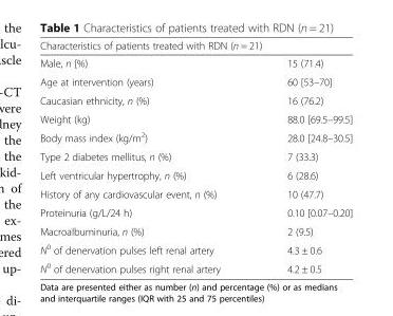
<table><thead><tr><td colspan="2">Characteristics of patients treated with RDN (n = 21)</td></tr><tr><td>Male, n [%)</td><td>15 (71.4)</td></tr></thead><tbody><tr><td>Age at intervention (years)</td><td>60 [53–70]</td></tr><tr><td>Caucasian ethnicity, n (%)</td><td>16 (76.2)</td></tr><tr><td>Weight (kg)</td><td>88.0 [69.5–99.5]</td></tr><tr><td>Body mass index (kg/m<sup>2</sup>)</td><td>28.0 [24.8–30.5]</td></tr><tr><td>Type 2 diabetes mellitus, n (%)</td><td>7 (33.3)</td></tr><tr><td>Left ventricular hypertrophy, n (%)</td><td>6 (28.6)</td></tr><tr><td>History of any cardiovascular event, n (%)</td><td>10 (47.7)</td></tr><tr><td>Proteinuria (g/L/24 h)</td><td>0.10 [0.07–0.20]</td></tr><tr><td>Macroalbuminuria, n (%)</td><td>2 (9.5)</td></tr><tr><td>N<sup>0</sup> of denervation pulses left renal artery</td><td>4.3 ± 0.6</td></tr><tr><td>N<sup>0</sup> of denervation pulses right renal artery</td><td>4.2 ± 0.5</td></tr></tbody></table>